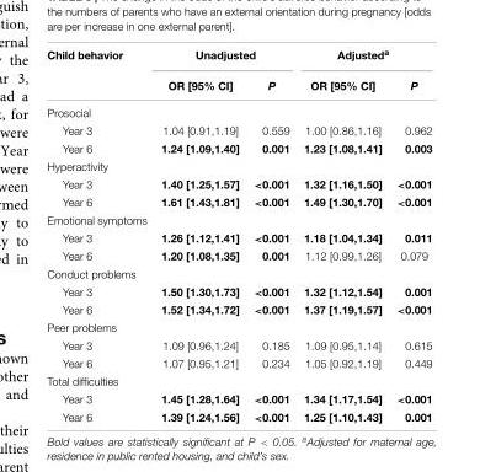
<table><thead><tr><td rowspan="2">Child behavior</td><td colspan="2">Unadjusted</td><td colspan="2">Adjusted<sup>a</sup></td></tr><tr><td>OR [95% CI]</td><td>P</td><td>OR [95% CI]</td><td>P</td></tr></thead><tbody><tr><td colspan="5">Prosocial</td></tr><tr><td>Year 3</td><td>1.04 [0.91,1.19]</td><td>0.559</td><td>1.00 [0.86,1.16]</td><td>0.962</td></tr><tr><td>Year 6</td><td>1.24 [1.09,1.40]</td><td>0.001</td><td>1.23 [1.08,1.41]</td><td>0.003</td></tr><tr><td colspan="5">Hyperactivity</td></tr><tr><td>Year 3</td><td>1.40 [1.25,1.57]</td><td>&lt;0.001</td><td>1.32 [1.16,1.50]</td><td>&lt;0.001</td></tr><tr><td>Year 6</td><td>1.61 [1.43,1.81]</td><td>&lt;0.001</td><td>1.49 [1.30,1.70]</td><td>&lt;0.001</td></tr><tr><td colspan="5">Emotional symptoms</td></tr><tr><td>Year 3</td><td>1.26 [1.12,1.41]</td><td>&lt;0.001</td><td>1.18 [1.04,1.34]</td><td>0.011</td></tr><tr><td>Year 6</td><td>1.20 [1.08,1.35]</td><td>0.001</td><td>1.12 [0.99,1.26]</td><td>0.079</td></tr><tr><td colspan="5">Conduct problems</td></tr><tr><td>Year 3</td><td>1.50 [1.30,1.73]</td><td>&lt;0.001</td><td>1.32 [1.12,1.54]</td><td>0.001</td></tr><tr><td>Year 6</td><td>1.52 [1.34,1.72]</td><td>&lt;0.001</td><td>1.37 [1.19,1.57]</td><td>&lt;0.001</td></tr><tr><td colspan="5">Peer problems</td></tr><tr><td>Year 3</td><td>1.09 [0.96,1.24]</td><td>0.185</td><td>1.09 [0.95,1.14]</td><td>0.615</td></tr><tr><td>Year 6</td><td>1.07 [0.95,1.21]</td><td>0.234</td><td>1.05 [0.92,1.19]</td><td>0.449</td></tr><tr><td colspan="5">Total difficulties</td></tr><tr><td>Year 3</td><td>1.45 [1.28,1.64]</td><td>&lt;0.001</td><td>1.34 [1.17,1.54]</td><td>&lt;0.001</td></tr><tr><td>Year 6</td><td>1.39 [1.24,1.56]</td><td>&lt;0.001</td><td>1.25 [1.10,1.43]</td><td>0.001</td></tr></tbody></table>